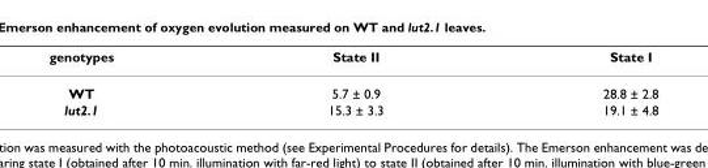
<table><thead><tr><td>genotypes</td><td>State II</td><td>State I</td></tr></thead><tbody><tr><td>WT</td><td>5.7 ± 0.9</td><td>28.8 ± 2.8</td></tr><tr><td>lut2.1</td><td>15.3 ± 3.3</td><td>19.1 ± 4.8</td></tr></tbody></table>